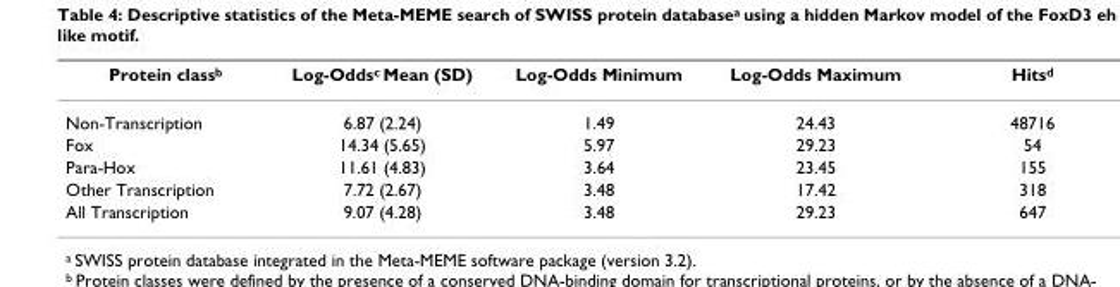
<table><thead><tr><td>Protein class<sup>b</sup></td><td>Log-Odds<sup>c</sup> Mean (SD)</td><td>Log-Odds Minimum</td><td>Log-Odds Maximum</td><td>Hits<sup>d</sup></td></tr></thead><tbody><tr><td>Non-Transcription</td><td>6.87 (2.24)</td><td>1.49</td><td>24.43</td><td>48716</td></tr><tr><td>Fox</td><td>14.34 (5.65)</td><td>5.97</td><td>29.23</td><td>54</td></tr><tr><td>Para-Hox</td><td>11.61 (4.83)</td><td>3.64</td><td>23.45</td><td>155</td></tr><tr><td>Other Transcription</td><td>7.72 (2.67)</td><td>3.48</td><td>17.42</td><td>318</td></tr><tr><td>All Transcription</td><td>9.07 (4.28)</td><td>3.48</td><td>29.23</td><td>647</td></tr></tbody></table>